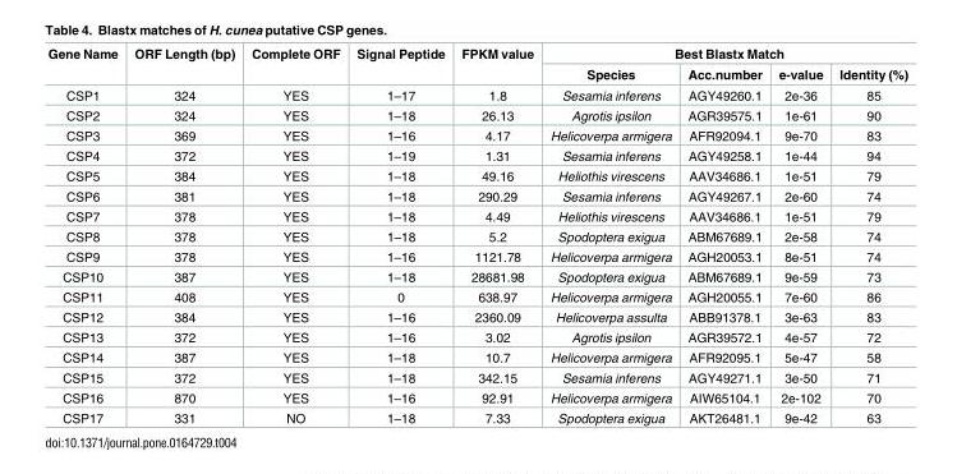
<table><thead><tr><td rowspan="2">Gene Name</td><td rowspan="2">ORF Length (bp)</td><td rowspan="2">Complete ORF</td><td rowspan="2">Signal Peptide</td><td rowspan="2">FPKM value</td><td colspan="4">Best Blastx Match</td></tr><tr><td>Species</td><td>Acc.number</td><td>e-value</td><td>Identity (%)</td></tr></thead><tbody><tr><td>CSP1</td><td>324</td><td>YES</td><td>1–17</td><td>1.8</td><td>Sesamia inferens</td><td>AGY49260.1</td><td>2e-36</td><td>85</td></tr><tr><td>CSP2</td><td>324</td><td>YES</td><td>1–18</td><td>26.13</td><td>Agrotis ipsilon</td><td>AGR39575.1</td><td>1e-61</td><td>90</td></tr><tr><td>CSP3</td><td>369</td><td>YES</td><td>1–16</td><td>4.17</td><td>Helicoverpa armigera</td><td>AFR92094.1</td><td>9e-70</td><td>83</td></tr><tr><td>CSP4</td><td>372</td><td>YES</td><td>1–19</td><td>1.31</td><td>Sesamia inferens</td><td>AGY49258.1</td><td>1e-44</td><td>94</td></tr><tr><td>CSP5</td><td>384</td><td>YES</td><td>1–18</td><td>49.16</td><td>Heliothis virescens</td><td>AAV34686.1</td><td>1e-51</td><td>79</td></tr><tr><td>CSP6</td><td>381</td><td>YES</td><td>1–18</td><td>290.29</td><td>Sesamia inferens</td><td>AGY49267.1</td><td>2e-60</td><td>74</td></tr><tr><td>CSP7</td><td>378</td><td>YES</td><td>1–18</td><td>4.49</td><td>Heliothis virescens</td><td>AAV34686.1</td><td>1e-51</td><td>79</td></tr><tr><td>CSP8</td><td>378</td><td>YES</td><td>1–18</td><td>5.2</td><td>Spodoptera exigua</td><td>ABM67689.1</td><td>2e-58</td><td>74</td></tr><tr><td>CSP9</td><td>378</td><td>YES</td><td>1–16</td><td>1121.78</td><td>Helicoverpa armigera</td><td>AGH20053.1</td><td>8e-51</td><td>74</td></tr><tr><td>CSP10</td><td>387</td><td>YES</td><td>1–18</td><td>28681.98</td><td>Spodoptera exigua</td><td>ABM67689.1</td><td>9e-59</td><td>73</td></tr><tr><td>CSP11</td><td>408</td><td>YES</td><td>0</td><td>638.97</td><td>Helicoverpa armigera</td><td>AGH20055.1</td><td>7e-60</td><td>86</td></tr><tr><td>CSP12</td><td>384</td><td>YES</td><td>1–16</td><td>2360.09</td><td>Helicoverpa assulta</td><td>ABB91378.1</td><td>3e-63</td><td>83</td></tr><tr><td>CSP13</td><td>372</td><td>YES</td><td>1–16</td><td>3.02</td><td>Agrotis ipsilon</td><td>AGR39572.1</td><td>4e-57</td><td>72</td></tr><tr><td>CSP14</td><td>387</td><td>YES</td><td>1–18</td><td>10.7</td><td>Helicoverpa armigera</td><td>AFR92095.1</td><td>5e-47</td><td>58</td></tr><tr><td>CSP15</td><td>372</td><td>YES</td><td>1–18</td><td>342.15</td><td>Sesamia inferens</td><td>AGY49271.1</td><td>3e-50</td><td>71</td></tr><tr><td>CSP16</td><td>870</td><td>YES</td><td>1–16</td><td>92.91</td><td>Helicoverpa armigera</td><td>AIW65104.1</td><td>2e-102</td><td>70</td></tr><tr><td>CSP17</td><td>331</td><td>NO</td><td>1–18</td><td>7.33</td><td>Spodoptera exigua</td><td>AKT26481.1</td><td>9e-42</td><td>63</td></tr></tbody></table>